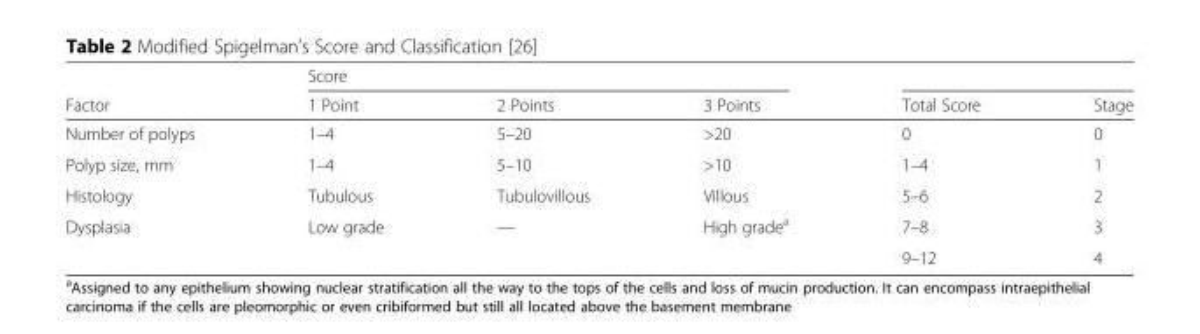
<table><thead><tr><td rowspan="2">Factor</td><td colspan="3">Score</td><td rowspan="2">Total Score</td><td rowspan="2">Stage</td></tr><tr><td>1 Point</td><td>2 Points</td><td>3 Points</td></tr></thead><tbody><tr><td>Number of polyps</td><td>1–4</td><td>5–20</td><td>&gt;20</td><td>0</td><td>0</td></tr><tr><td>Polyp size, mm</td><td>1–4</td><td>5–10</td><td>&gt;10</td><td>1–4</td><td>1</td></tr><tr><td>Histology</td><td>Tubulous</td><td>Tubulovillous</td><td>Villous</td><td>5–6</td><td>2</td></tr><tr><td>Dysplasia</td><td>Low grade</td><td>—</td><td>High grade<sup>a</sup></td><td>7–8</td><td>3</td></tr><tr><td colspan="4"></td><td>9–12</td><td>4</td></tr></tbody></table>